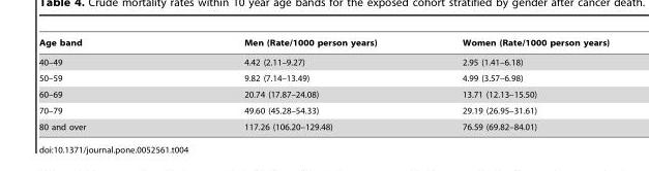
<table><thead><tr><td>Age band</td><td>Men (Rate/1000 person years)</td><td>Women (Rate/1000 person years)</td></tr></thead><tbody><tr><td>40–49</td><td>4.42 (2.11–9.27)</td><td>2.95 (1.41–6.18)</td></tr><tr><td>50–59</td><td>9.82 (7.14–13.49)</td><td>4.99 (3.57–6.98)</td></tr><tr><td>60–69</td><td>20.74 (17.87–24.08)</td><td>13.71 (12.13–15.50)</td></tr><tr><td>70–79</td><td>49.60 (45.28–54.33)</td><td>29.19 (26.95–31.61)</td></tr><tr><td>80 and over</td><td>117.26 (106.20–129.48)</td><td>76.59 (69.82–84.01)</td></tr></tbody></table>